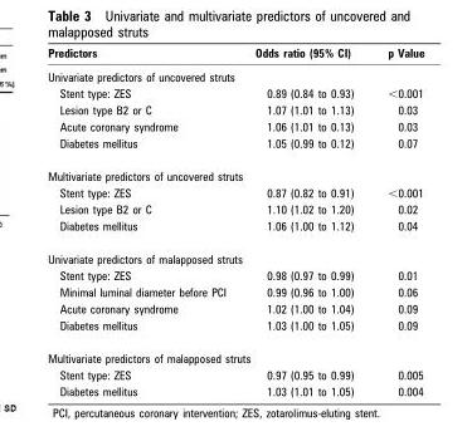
<table><thead><tr><td>Predictors</td><td>Odds ratio (95% CI)</td><td>p Value</td></tr></thead><tbody><tr><td colspan="3">Univariate predictors of uncovered struts</td></tr><tr><td>Stent type: ZES</td><td>0.89 (0.84 to 0.93)</td><td>&lt;0.001</td></tr><tr><td>Lesion type B2 or C</td><td>1.07 (1.01 to 1.13)</td><td>0.03</td></tr><tr><td>Acute coronary syndrome</td><td>1.06 (1.01 to 0.13)</td><td>0.03</td></tr><tr><td>Diabetes mellitus</td><td>1.05 (0.99 to 0.12)</td><td>0.07</td></tr><tr><td colspan="3">Multivariate predictors of uncovered struts</td></tr><tr><td>Stent type: ZES</td><td>0.87 (0.82 to 0.91)</td><td>&lt;0.001</td></tr><tr><td>Lesion type B2 or C</td><td>1.10 (1.02 to 1.20)</td><td>0.02</td></tr><tr><td>Diabetes mellitus</td><td>1.06 (1.00 to 1.12)</td><td>0.04</td></tr><tr><td colspan="3">Univariate predictors of malapposed struts</td></tr><tr><td>Stent type: ZES</td><td>0.98 (0.97 to 0.99)</td><td>0.01</td></tr><tr><td>Minimal luminal diameter before PCI</td><td>0.99 (0.96 to 1.00)</td><td>0.06</td></tr><tr><td>Acute coronary syndrome</td><td>1.02 (1.00 to 1.04)</td><td>0.09</td></tr><tr><td>Diabetes mellitus</td><td>1.03 (1.00 to 1.05)</td><td>0.09</td></tr><tr><td colspan="3">Multivariate predictors of malapposed struts</td></tr><tr><td>Stent type: ZES</td><td>0.97 (0.95 to 0.99)</td><td>0.005</td></tr><tr><td>Diabetes mellitus</td><td>1.03 (1.01 to 1.05)</td><td>0.004</td></tr></tbody></table>